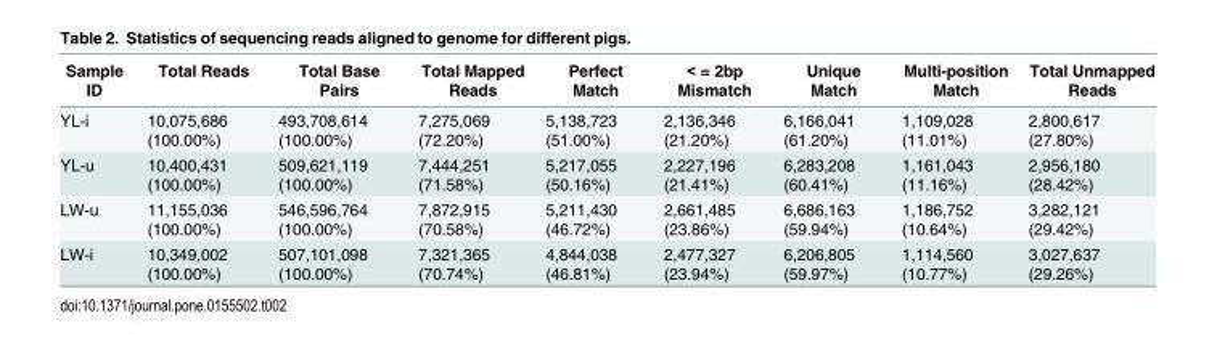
<table><thead><tr><td>Sample ID</td><td>Total Reads</td><td>Total Base Pairs</td><td>Total Mapped Reads</td><td>Perfect Match</td><td>&lt; = 2bp Mismatch</td><td>Unique Match</td><td>Multi-position Match</td><td>Total Unmapped Reads</td></tr></thead><tbody><tr><td>YL-i</td><td>10,075,686 (100.00%)</td><td>493,708,614 (100.00%)</td><td>7,275,069 (72.20%)</td><td>5,138,723 (51.00%)</td><td>2,136,346 (21.20%)</td><td>6,166,041 (61.20%)</td><td>1,109,028 (11.01%)</td><td>2,800,617 (27.80%)</td></tr><tr><td>YL-u</td><td>10,400,431 (100.00%)</td><td>509,621,119 (100.00%)</td><td>7,444,251 (71.58%)</td><td>5,217,055 (50.16%)</td><td>2,227,196 (21.41%)</td><td>6,283,208 (60.41%)</td><td>1,161,043 (11.16%)</td><td>2,956,180 (28.42%)</td></tr><tr><td>LW-u</td><td>11,155,036 (100.00%)</td><td>546,596,764 (100.00%)</td><td>7,872,915 (70.58%)</td><td>5,211,430 (46.72%)</td><td>2,661,485 (23.86%)</td><td>6,686,163 (59.94%)</td><td>1,186,752 (10.64%)</td><td>3,282,121 (29.42%)</td></tr><tr><td>LW-i</td><td>10,349,002 (100.00%)</td><td>507,101,098 (100.00%)</td><td>7,321,365 (70.74%)</td><td>4,844,038 (46.81%)</td><td>2,477,327 (23.94%)</td><td>6,206,805 (59.97%)</td><td>1,114,560 (10.77%)</td><td>3,027,637 (29.26%)</td></tr></tbody></table>